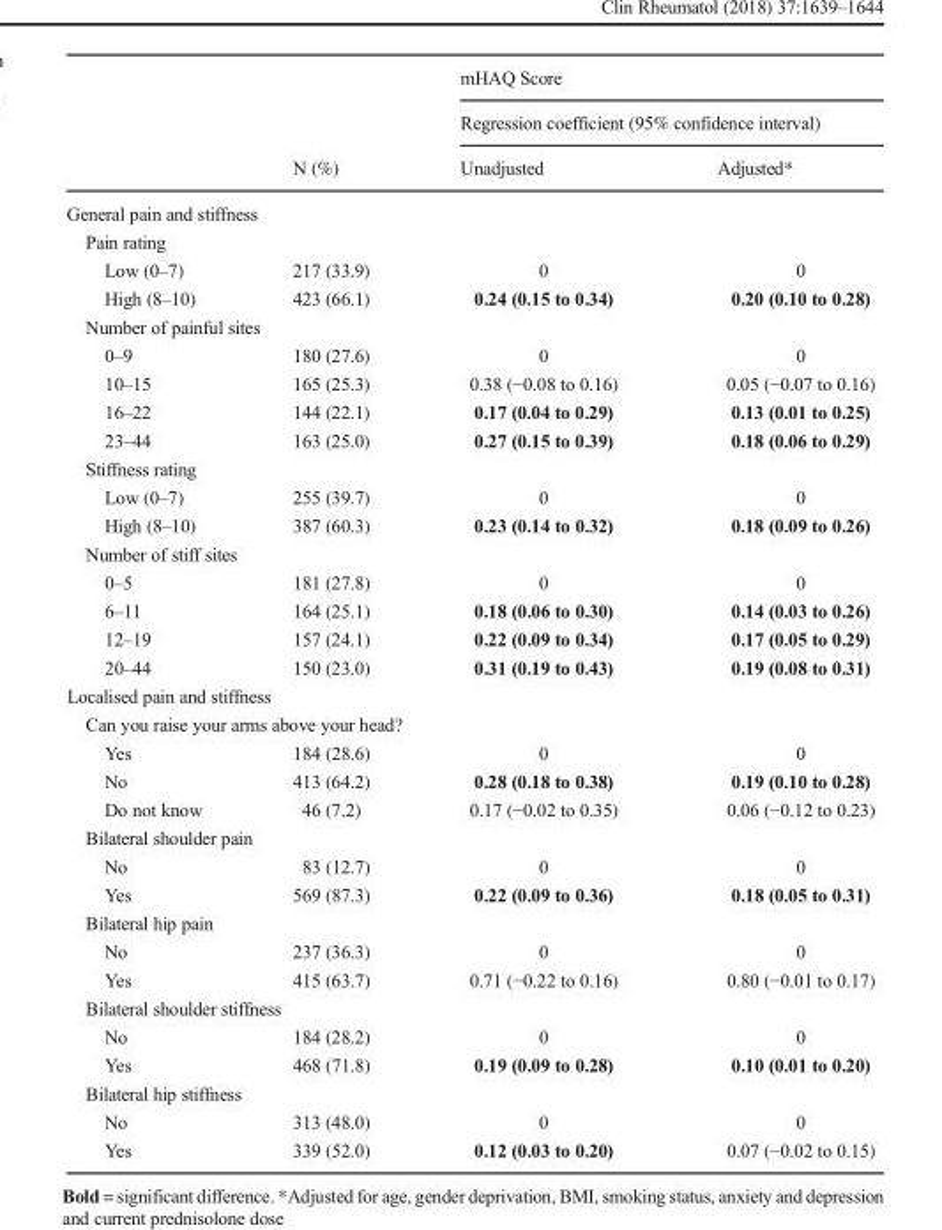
<table><thead><tr><td rowspan="3"></td><td rowspan="3">N (%)</td><td rowspan="2" colspan="2">mHAQ Score Regression coefficient (95% confidence interval)</td></tr><tr></tr><tr><td>Unadjusted</td><td>Adjusted*</td></tr></thead><tbody><tr><td colspan="4">General pain and stiffness</td></tr><tr><td colspan="4">Pain rating</td></tr><tr><td>Low (0–7)</td><td>217 (33.9)</td><td>0</td><td>0</td></tr><tr><td>High (8–10)</td><td>423 (66.1)</td><td>0.24 (0.15 to 0.34)</td><td>0.20 (0.10 to 0.28)</td></tr><tr><td colspan="4">Number of painful sites</td></tr><tr><td>0–9</td><td>180 (27.6)</td><td>0</td><td>0</td></tr><tr><td>10–15</td><td>165 (25.3)</td><td>0.38 (−0.08 to 0.16)</td><td>0.05 (−0.07 to 0.16)</td></tr><tr><td>16–22</td><td>144 (22.1)</td><td>0.17 (0.04 to 0.29)</td><td>0.13 (0.01 to 0.25)</td></tr><tr><td>23–44</td><td>163 (25.0)</td><td>0.27 (0.15 to 0.39)</td><td>0.18 (0.06 to 0.29)</td></tr><tr><td colspan="4">Stiffness rating</td></tr><tr><td>Low (0–7)</td><td>255 (39.7)</td><td>0</td><td>0</td></tr><tr><td>High (8–10)</td><td>387 (60.3)</td><td>0.23 (0.14 to 0.32)</td><td>0.18 (0.09 to 0.26)</td></tr><tr><td colspan="4">Number of stiff sites</td></tr><tr><td>0–5</td><td>181 (27.8)</td><td>0</td><td>0</td></tr><tr><td>6–11</td><td>164 (25.1)</td><td>0.18 (0.06 to 0.30)</td><td>0.14 (0.03 to 0.26)</td></tr><tr><td>12–19</td><td>157 (24.1)</td><td>0.22 (0.09 to 0.34)</td><td>0.17 (0.05 to 0.29)</td></tr><tr><td>20–44</td><td>150 (23.0)</td><td>0.31 (0.19 to 0.43)</td><td>0.19 (0.08 to 0.31)</td></tr><tr><td colspan="4">Localised pain and stiffness</td></tr><tr><td colspan="4">Can you raise your arms above your head?</td></tr><tr><td>Yes</td><td>184 (28.6)</td><td>0</td><td>0</td></tr><tr><td>No</td><td>413 (64.2)</td><td>0.28 (0.18 to 0.38)</td><td>0.19 (0.10 to 0.28)</td></tr><tr><td>Do not know</td><td>46 (7.2)</td><td>0.17 (−0.02 to 0.35)</td><td>0.06 (−0.12 to 0.23)</td></tr><tr><td colspan="4">Bilateral shoulder pain</td></tr><tr><td>No</td><td>83 (12.7)</td><td>0</td><td>0</td></tr><tr><td>Yes</td><td>569 (87.3)</td><td>0.22 (0.09 to 0.36)</td><td>0.18 (0.05 to 0.31)</td></tr><tr><td colspan="4">Bilateral hip pain</td></tr><tr><td>No</td><td>237 (36.3)</td><td>0</td><td>0</td></tr><tr><td>Yes</td><td>415 (63.7)</td><td>0.71 (−0.22 to 0.16)</td><td>0.80 (−0.01 to 0.17)</td></tr><tr><td colspan="4">Bilateral shoulder stiffness</td></tr><tr><td>No</td><td>184 (28.2)</td><td>0</td><td>0</td></tr><tr><td>Yes</td><td>468 (71.8)</td><td>0.19 (0.09 to 0.28)</td><td>0.10 (0.01 to 0.20)</td></tr><tr><td colspan="4">Bilateral hip stiffness</td></tr><tr><td>No</td><td>313 (48.0)</td><td>0</td><td>0</td></tr><tr><td>Yes</td><td>339 (52.0)</td><td>0.12 (0.03 to 0.20)</td><td>0.07 (−0.02 to 0.15)</td></tr></tbody></table>